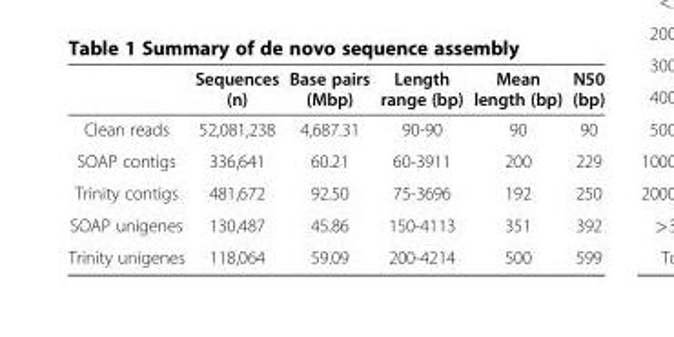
<table><thead><tr><td></td><td>Sequences (n)</td><td>Base pairs (Mbp)</td><td>Length range (bp)</td><td>Mean length (bp)</td><td>N50 (bp)</td></tr></thead><tbody><tr><td>Clean reads</td><td>52,081,238</td><td>4,687.31</td><td>90-90</td><td>90</td><td>90</td></tr><tr><td>SOAP contigs</td><td>336,641</td><td>60.21</td><td>60-3911</td><td>200</td><td>229</td></tr><tr><td>Trinity contigs</td><td>481,672</td><td>92.50</td><td>75-3696</td><td>192</td><td>250</td></tr><tr><td>SOAP unigenes</td><td>130,487</td><td>45.86</td><td>150-4113</td><td>351</td><td>392</td></tr><tr><td>Trinity unigenes</td><td>118,064</td><td>59.09</td><td>200-4214</td><td>500</td><td>599</td></tr></tbody></table>